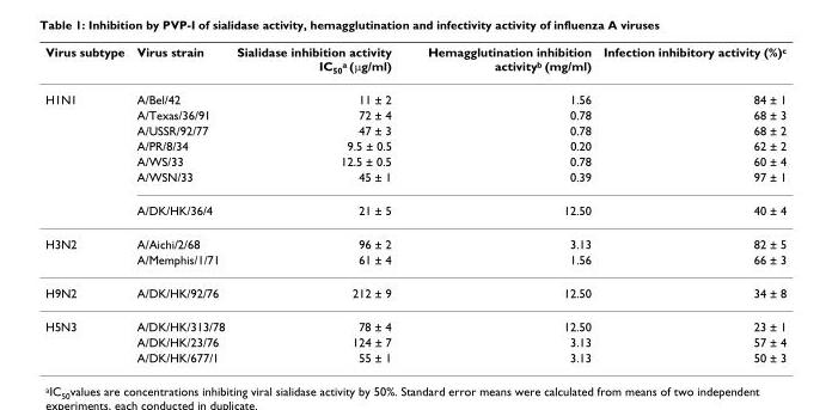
<table><thead><tr><td>Virus subtype</td><td>Virus strain</td><td>Sialidase inhibition activity IC<sub>50</sub><sup>a</sup> (μg/ml)</td><td>Hemagglutination inhibition activity<sup>b</sup> (mg/ml)</td><td>Infection inhibitory activity (%)<sup>c</sup></td></tr></thead><tbody><tr><td rowspan="7">H1N1</td><td>A/Bel/42</td><td>11 ± 2</td><td>1.56</td><td>84 ± 1</td></tr><tr><td>A/Texas/36/91</td><td>72 ± 4</td><td>0.78</td><td>68 ± 3</td></tr><tr><td>A/USSR/92/77</td><td>47 ± 3</td><td>0.78</td><td>68 ± 2</td></tr><tr><td>A/PR/8/34</td><td>9.5 ± 0.5</td><td>0.20</td><td>62 ± 2</td></tr><tr><td>A/WS/33</td><td>12.5 ± 0.5</td><td>0.78</td><td>60 ± 4</td></tr><tr><td>A/WSN/33</td><td>45 ± 1</td><td>0.39</td><td>97 ± 1</td></tr><tr><td>A/DK/HK/36/4</td><td>21 ± 5</td><td>12.50</td><td>40 ± 4</td></tr><tr><td rowspan="2">H3N2</td><td>A/Aichi/2/68</td><td>96 ± 2</td><td>3.13</td><td>82 ± 5</td></tr><tr><td>A/Memphis/1/71</td><td>61 ± 4</td><td>1.56</td><td>66 ± 3</td></tr><tr><td>H9N2</td><td>A/DK/HK/92/76</td><td>212 ± 9</td><td>12.50</td><td>34 ± 8</td></tr><tr><td rowspan="3">H5N3</td><td>A/DK/HK/313/78</td><td>78 ± 4</td><td>12.50</td><td>23 ± 1</td></tr><tr><td>A/DK/HK/23/76</td><td>124 ± 7</td><td>3.13</td><td>57 ± 4</td></tr><tr><td>A/DK/HK/677/1</td><td>55 ± 1</td><td>3.13</td><td>50 ± 3</td></tr></tbody></table>